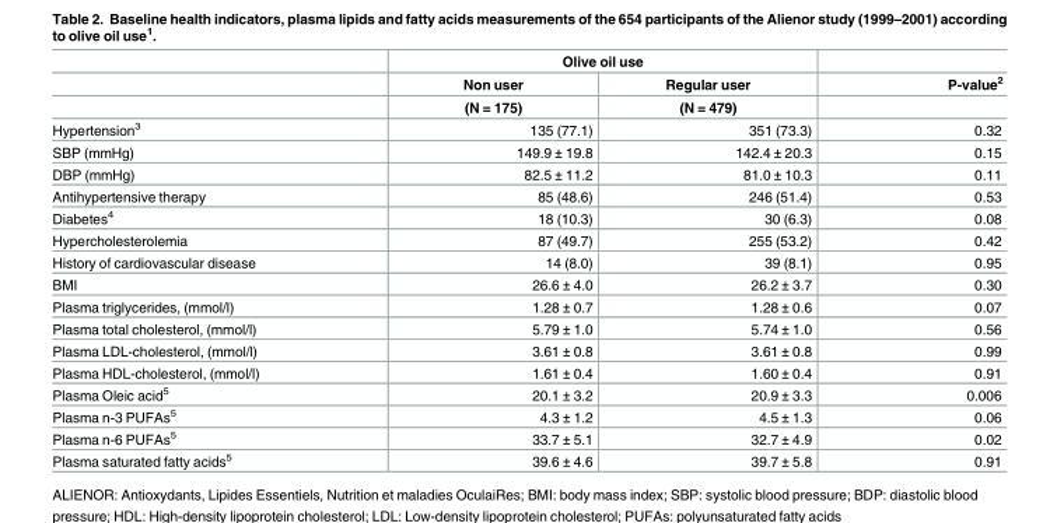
<table><thead><tr><td rowspan="3"></td><td colspan="2">Olive oil use</td><td rowspan="3">P-value<sup>2</sup></td></tr><tr><td rowspan="2">Non user (N = 175)</td><td rowspan="2">Regular user (N = 479)</td></tr><tr></tr></thead><tbody><tr><td>Hypertension<sup>3</sup></td><td>135 (77.1)</td><td>351 (73.3)</td><td>0.32</td></tr><tr><td>SBP (mmHg)</td><td>149.9 ± 19.8</td><td>142.4 ± 20.3</td><td>0.15</td></tr><tr><td>DBP (mmHg)</td><td>82.5 ± 11.2</td><td>81.0 ± 10.3</td><td>0.11</td></tr><tr><td>Antihypertensive therapy</td><td>85 (48.6)</td><td>246 (51.4)</td><td>0.53</td></tr><tr><td>Diabetes<sup>4</sup></td><td>18 (10.3)</td><td>30 (6.3)</td><td>0.08</td></tr><tr><td>Hypercholesterolemia</td><td>87 (49.7)</td><td>255 (53.2)</td><td>0.42</td></tr><tr><td>History of cardiovascular disease</td><td>14 (8.0)</td><td>39 (8.1)</td><td>0.95</td></tr><tr><td>BMI</td><td>26.6 ± 4.0</td><td>26.2 ± 3.7</td><td>0.30</td></tr><tr><td>Plasma triglycerides, (mmol/l)</td><td>1.28 ± 0.7</td><td>1.28 ± 0.6</td><td>0.07</td></tr><tr><td>Plasma total cholesterol, (mmol/l)</td><td>5.79 ± 1.0</td><td>5.74 ± 1.0</td><td>0.56</td></tr><tr><td>Plasma LDL-cholesterol, (mmol/l)</td><td>3.61 ± 0.8</td><td>3.61 ± 0.8</td><td>0.99</td></tr><tr><td>Plasma HDL-cholesterol, (mmol/l)</td><td>1.61 ± 0.4</td><td>1.60 ± 0.4</td><td>0.91</td></tr><tr><td>Plasma Oleic acid<sup>5</sup></td><td>20.1 ± 3.2</td><td>20.9 ± 3.3</td><td>0.006</td></tr><tr><td>Plasma n-3 PUFAs<sup>5</sup></td><td>4.3 ± 1.2</td><td>4.5 ± 1.3</td><td>0.06</td></tr><tr><td>Plasma n-6 PUFAs<sup>5</sup></td><td>33.7 ± 5.1</td><td>32.7 ± 4.9</td><td>0.02</td></tr><tr><td>Plasma saturated fatty acids<sup>5</sup></td><td>39.6 ± 4.6</td><td>39.7 ± 5.8</td><td>0.91</td></tr></tbody></table>